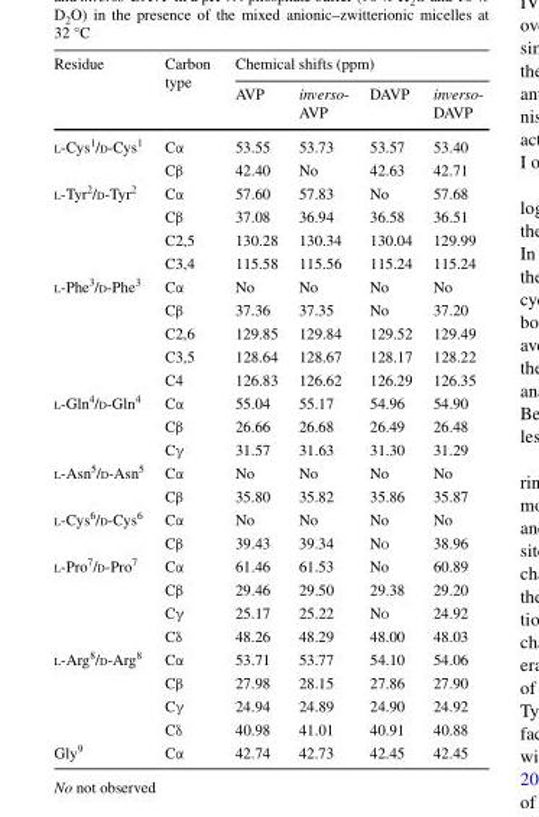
<table><thead><tr><td rowspan="2">Residue</td><td rowspan="2">Carbon type</td><td colspan="4">Chemical shifts (ppm)</td></tr><tr><td>AVP</td><td>inverso- AVP</td><td>DAVP</td><td>inverso- DAVP</td></tr></thead><tbody><tr><td rowspan="2">l-Cys<sup>1</sup>/d-Cys<sup>1</sup></td><td>Cα</td><td>53.55</td><td>53.73</td><td>53.57</td><td>53.40</td></tr><tr><td>Cβ</td><td>42.40</td><td>No</td><td>42.63</td><td>42.71</td></tr><tr><td rowspan="4">l-Tyr<sup>2</sup>/d-Tyr<sup>2</sup></td><td>Cα</td><td>57.60</td><td>57.83</td><td>No</td><td>57.68</td></tr><tr><td>Cβ</td><td>37.08</td><td>36.94</td><td>36.58</td><td>36.51</td></tr><tr><td>C2,5</td><td>130.28</td><td>130.34</td><td>130.04</td><td>129.99</td></tr><tr><td>C3,4</td><td>115.58</td><td>115.56</td><td>115.24</td><td>115.24</td></tr><tr><td rowspan="5">l-Phe<sup>3</sup>/d-Phe<sup>3</sup></td><td>Cα</td><td>No</td><td>No</td><td>No</td><td>No</td></tr><tr><td>Cβ</td><td>37.36</td><td>37.35</td><td>No</td><td>37.20</td></tr><tr><td>C2,6</td><td>129.85</td><td>129.84</td><td>129.52</td><td>129.49</td></tr><tr><td>C3,5</td><td>128.64</td><td>128.67</td><td>128.17</td><td>128.22</td></tr><tr><td>C4</td><td>126.83</td><td>126.62</td><td>126.29</td><td>126.35</td></tr><tr><td rowspan="3">l-Gln<sup>4</sup>/d-Gln<sup>4</sup></td><td>Cα</td><td>55.04</td><td>55.17</td><td>54.96</td><td>54.90</td></tr><tr><td>Cβ</td><td>26.66</td><td>26.68</td><td>26.49</td><td>26.48</td></tr><tr><td>Cγ</td><td>31.57</td><td>31.63</td><td>31.30</td><td>31.29</td></tr><tr><td rowspan="2">l-Asn<sup>5</sup>/d-Asn<sup>5</sup></td><td>Cα</td><td>No</td><td>No</td><td>No</td><td>No</td></tr><tr><td>Cβ</td><td>35.80</td><td>35.82</td><td>35.86</td><td>35.87</td></tr><tr><td rowspan="2">l-Cys<sup>6</sup>/d-Cys<sup>6</sup></td><td>Cα</td><td>No</td><td>No</td><td>No</td><td>No</td></tr><tr><td>Cβ</td><td>39.43</td><td>39.34</td><td>No</td><td>38.96</td></tr><tr><td rowspan="4">l-Pro<sup>7</sup>/d-Pro<sup>7</sup></td><td>Cα</td><td>61.46</td><td>61.53</td><td>No</td><td>60.89</td></tr><tr><td>Cβ</td><td>29.46</td><td>29.50</td><td>29.38</td><td>29.20</td></tr><tr><td>Cγ</td><td>25.17</td><td>25.22</td><td>No</td><td>24.92</td></tr><tr><td>Cδ</td><td>48.26</td><td>48.29</td><td>48.00</td><td>48.03</td></tr><tr><td rowspan="4">l-Arg<sup>8</sup>/d-Arg<sup>8</sup></td><td>Cα</td><td>53.71</td><td>53.77</td><td>54.10</td><td>54.06</td></tr><tr><td>Cβ</td><td>27.98</td><td>28.15</td><td>27.86</td><td>27.90</td></tr><tr><td>Cγ</td><td>24.94</td><td>24.89</td><td>24.90</td><td>24.92</td></tr><tr><td>Cδ</td><td>40.98</td><td>41.01</td><td>40.91</td><td>40.88</td></tr><tr><td>Gly<sup>9</sup></td><td>Cα</td><td>42.74</td><td>42.73</td><td>42.45</td><td>42.45</td></tr></tbody></table>